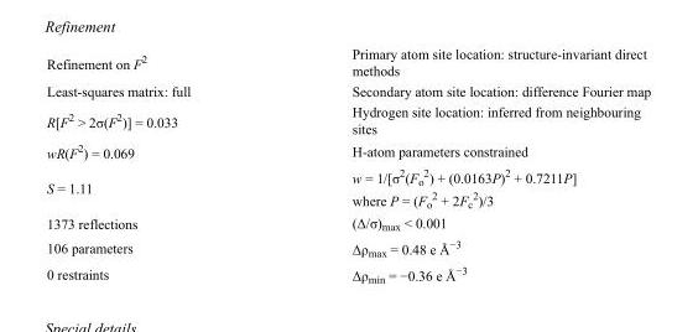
<table><tbody><tr><td>Refinement on F<sup>2</sup></td><td>Primary atom site location: structure-invariant direct methods</td></tr><tr><td>Least-squares matrix: full</td><td>Secondary atom site location: difference Fourier map</td></tr><tr><td>R[F<sup>2</sup> &gt; 2σ(F<sup>2</sup>)] = 0.033</td><td>Hydrogen site location: inferred from neighbouring sites</td></tr><tr><td>wR(F<sup>2</sup>) = 0.069</td><td>H-atom parameters constrained</td></tr><tr><td>S = 1.11</td><td>w = 1/[σ<sup>2</sup>(F<sub>o</sub> <sup>2</sup>) + (0.0163P)<sup>2</sup> + 0.7211P] where P = (F<sub>o</sub> <sup>2</sup> + 2F<sub>c</sub> <sup>2</sup>)/3</td></tr><tr><td>1373 reflections</td><td>(Δ/σ)<sub>max</sub> &lt; 0.001</td></tr><tr><td>106 parameters</td><td>Δρ<sub>max</sub> = 0.48 e Å<sup>−3</sup></td></tr><tr><td>0 restraints</td><td>Δρ<sub>min</sub> = −0.36 e Å<sup>−3</sup></td></tr></tbody></table>